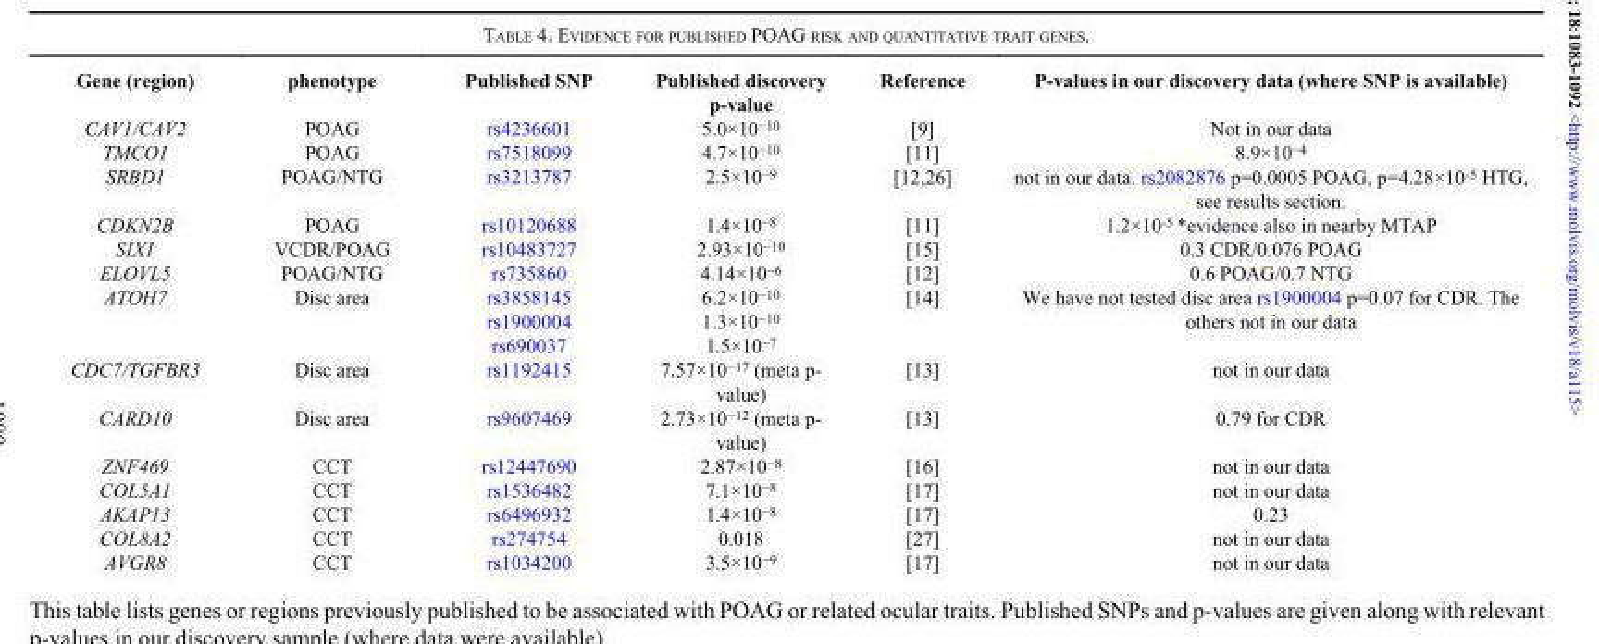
<table><thead><tr><td>Gene (region)</td><td>phenotype</td><td>Published SNP</td><td>Published discovery p-value</td><td>Reference</td><td>P-values in our discovery data (where SNP is available)</td></tr></thead><tbody><tr><td>CAV1/CAV2</td><td>POAG</td><td>rs4236601</td><td>5.0×10<sup>−10</sup></td><td>[9]</td><td>Not in our data</td></tr><tr><td>TMCO1</td><td>POAG</td><td>rs7518099</td><td>4.7×10<sup>−10</sup></td><td>[11]</td><td>8.9×10<sup>−4</sup></td></tr><tr><td>SRBD1</td><td>POAG/NTG</td><td>rs3213787</td><td>2.5×10<sup>−9</sup></td><td>[12,26]</td><td>not in our data. rs2082876 p=0.0005 POAG, p=4.28×10<sup>-5</sup> HTG, see results section.</td></tr><tr><td>CDKN2B</td><td>POAG</td><td>rs10120688</td><td>1.4×10<sup>−8</sup></td><td>[11]</td><td>1.2×10<sup>-5</sup> *evidence also in nearby MTAP</td></tr><tr><td>SIX1</td><td>VCDR/POAG</td><td>rs10483727</td><td>2.93×10<sup>−10</sup></td><td>[15]</td><td>0.3 CDR/0.076 POAG</td></tr><tr><td>ELOVL5</td><td>POAG/NTG</td><td>rs735860</td><td>4.14×10<sup>−6</sup></td><td>[12]</td><td>0.6 POAG/0.7 NTG</td></tr><tr><td>ATOH7</td><td>Disc area</td><td>rs3858145 rs1900004 rs690037</td><td>6.2×10<sup>−10</sup> 1.3×10<sup>−10</sup> 1.5×10<sup>−7</sup></td><td>[14]</td><td>We have not tested disc area rs1900004 p=0.07 for CDR. The others not in our data</td></tr><tr><td>CDC7/TGFBR3</td><td>Disc area</td><td>rs1192415</td><td>7.57×10<sup>−17</sup> (meta p- value)</td><td>[13]</td><td>not in our data</td></tr><tr><td>CARD10</td><td>Disc area</td><td>rs9607469</td><td>2.73×10<sup>−12</sup> (meta p- value)</td><td>[13]</td><td>0.79 for CDR</td></tr><tr><td>ZNF469</td><td>CCT</td><td>rs12447690</td><td>2.87×10<sup>−8</sup></td><td>[16]</td><td>not in our data</td></tr><tr><td>COL5A1</td><td>CCT</td><td>rs1536482</td><td>7.1×10<sup>−8</sup></td><td>[17]</td><td>not in our data</td></tr><tr><td>AKAP13</td><td>CCT</td><td>rs6496932</td><td>1.4×10<sup>−8</sup></td><td>[17]</td><td>0.23</td></tr><tr><td>COL8A2</td><td>CCT</td><td>rs274754</td><td>0.018</td><td>[27]</td><td>not in our data</td></tr><tr><td>AVGR8</td><td>CCT</td><td>rs1034200</td><td>3.5×10<sup>−9</sup></td><td>[17]</td><td>not in our data</td></tr></tbody></table>